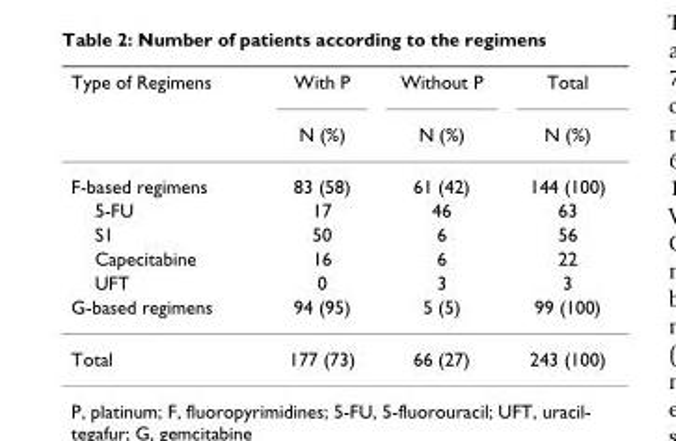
<table><thead><tr><td rowspan="2">Type of Regimens</td><td rowspan="2">With P N (%)</td><td rowspan="2">Without P N (%)</td><td rowspan="2">Total N (%)</td></tr><tr></tr></thead><tbody><tr><td>F-based regimens</td><td>83 (58)</td><td>61 (42)</td><td>144 (100)</td></tr><tr><td>5-FU</td><td>17</td><td>46</td><td>63</td></tr><tr><td>S1</td><td>50</td><td>6</td><td>56</td></tr><tr><td>Capecitabine</td><td>16</td><td>6</td><td>22</td></tr><tr><td>UFT</td><td>0</td><td>3</td><td>3</td></tr><tr><td>G-based regimens</td><td>94 (95)</td><td>5 (5)</td><td>99 (100)</td></tr><tr><td>Total</td><td>177 (73)</td><td>66 (27)</td><td>243 (100)</td></tr></tbody></table>